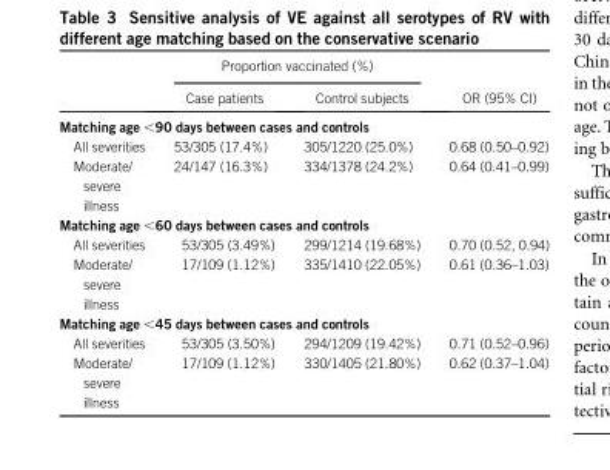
<table><thead><tr><td rowspan="2"></td><td colspan="2">Proportion vaccinated (%)</td><td rowspan="2">OR (95% CI)</td></tr><tr><td>Case patients</td><td>Control subjects</td></tr></thead><tbody><tr><td colspan="4">Matching age &lt;90 days between cases and controls</td></tr><tr><td>All severities</td><td>53/305 (17.4%)</td><td>305/1220 (25.0%)</td><td>0.68 (0.50–0.92)</td></tr><tr><td>Moderate/ severe illness</td><td>24/147 (16.3%)</td><td>334/1378 (24.2%)</td><td>0.64 (0.41–0.99)</td></tr><tr><td colspan="4">Matching age &lt;60 days between cases and controls</td></tr><tr><td>All severities</td><td>53/305 (3.49%)</td><td>299/1214 (19.68%)</td><td>0.70 (0.52, 0.94)</td></tr><tr><td>Moderate/ severe illness</td><td>17/109 (1.12%)</td><td>335/1410 (22.05%)</td><td>0.61 (0.36–1.03)</td></tr><tr><td colspan="4">Matching age &lt;45 days between cases and controls</td></tr><tr><td>All severities</td><td>53/305 (3.50%)</td><td>294/1209 (19.42%)</td><td>0.71 (0.52–0.96)</td></tr><tr><td>Moderate/ severe illness</td><td>17/109 (1.12%)</td><td>330/1405 (21.80%)</td><td>0.62 (0.37–1.04)</td></tr></tbody></table>